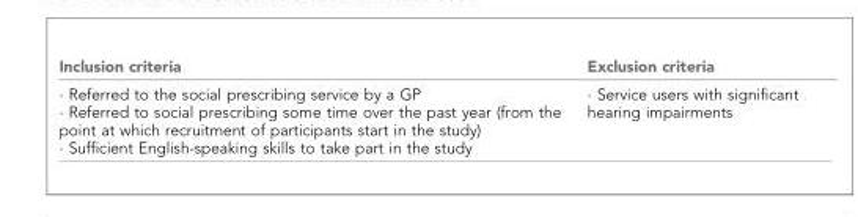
<table><thead><tr><td>Inclusion criteria</td><td>Exclusion criteria</td></tr></thead><tbody><tr><td>· Referred to the social prescribing service by a GP · Referred to social prescribing some time over the past year (from the point at which recruitment of participants start in the study) · Sufficient English-speaking skills to take part in the study</td><td>· Service users with significant hearing impairments</td></tr></tbody></table>